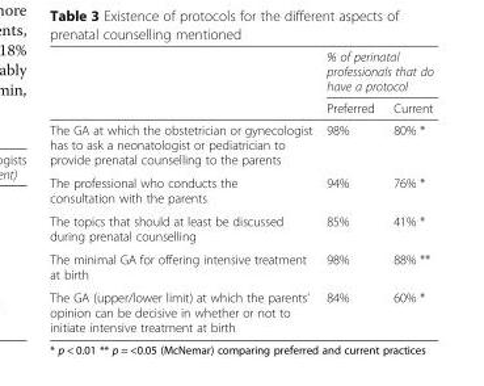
<table><thead><tr><td rowspan="2"></td><td colspan="2">% of perinatal professionals that do have a protocol</td></tr><tr><td>Preferred</td><td>Current</td></tr></thead><tbody><tr><td>The GA at which the obstetrician or gynecologist has to ask a neonatologist or pediatrician to provide prenatal counselling to the parents</td><td>98%</td><td>80% *</td></tr><tr><td>The professional who conducts the consultation with the parents</td><td>94%</td><td>76% *</td></tr><tr><td>The topics that should at least be discussed during prenatal counselling</td><td>85%</td><td>41% *</td></tr><tr><td>The minimal GA for offering intensive treatment at birth</td><td>98%</td><td>88% **</td></tr><tr><td>The GA (upper/lower limit) at which the parents’ opinion can be decisive in whether or not to initiate intensive treatment at birth</td><td>84%</td><td>60% *</td></tr></tbody></table>